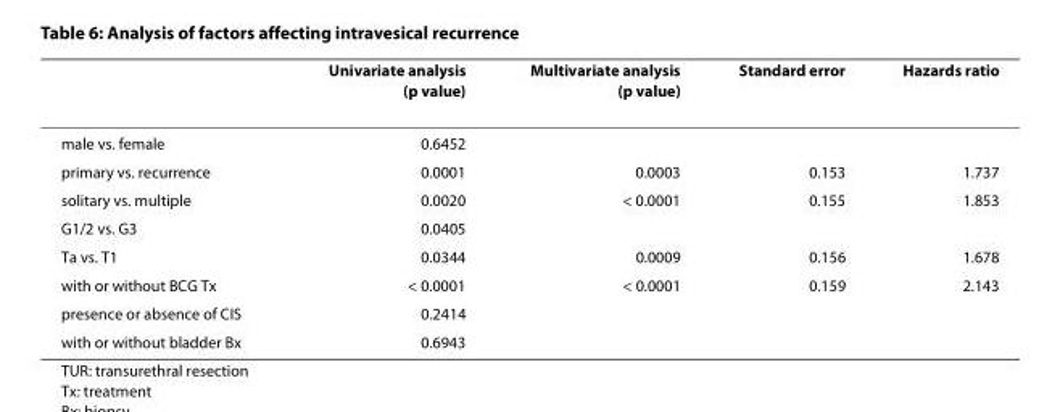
<table><thead><tr><td></td><td>Univariate analysis (p value)</td><td>Multivariate analysis (p value)</td><td>Standard error</td><td>Hazards ratio</td></tr></thead><tbody><tr><td>male vs. female</td><td>0.6452</td><td></td><td></td><td></td></tr><tr><td>primary vs. recurrence</td><td>0.0001</td><td>0.0003</td><td>0.153</td><td>1.737</td></tr><tr><td>solitary vs. multiple</td><td>0.0020</td><td>&lt; 0.0001</td><td>0.155</td><td>1.853</td></tr><tr><td>G1/2 vs. G3</td><td>0.0405</td><td></td><td></td><td></td></tr><tr><td>Ta vs. T1</td><td>0.0344</td><td>0.0009</td><td>0.156</td><td>1.678</td></tr><tr><td>with or without BCG Tx</td><td>&lt; 0.0001</td><td>&lt; 0.0001</td><td>0.159</td><td>2.143</td></tr><tr><td>presence or absence of CIS</td><td>0.2414</td><td></td><td></td><td></td></tr><tr><td>with or without bladder Bx</td><td>0.6943</td><td></td><td></td><td></td></tr></tbody></table>